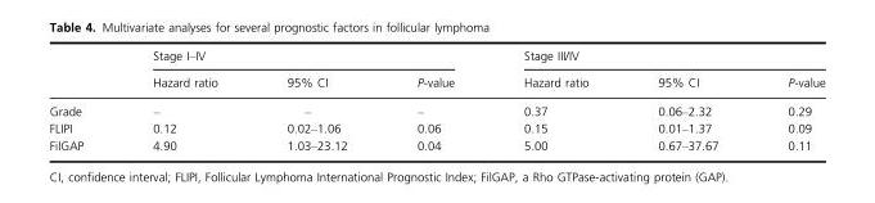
<table><thead><tr><td rowspan="2"></td><td colspan="3">Stage I–IV</td><td colspan="3">Stage III/IV</td></tr><tr><td>Hazard ratio</td><td>95% CI</td><td>P-value</td><td>Hazard ratio</td><td>95% CI</td><td>P-value</td></tr></thead><tbody><tr><td>Grade</td><td>–</td><td>–</td><td>–</td><td>0.37</td><td>0.06–2.32</td><td>0.29</td></tr><tr><td>FLIPI</td><td>0.12</td><td>0.02–1.06</td><td>0.06</td><td>0.15</td><td>0.01–1.37</td><td>0.09</td></tr><tr><td>FilGAP</td><td>4.90</td><td>1.03–23.12</td><td>0.04</td><td>5.00</td><td>0.67–37.67</td><td>0.11</td></tr></tbody></table>